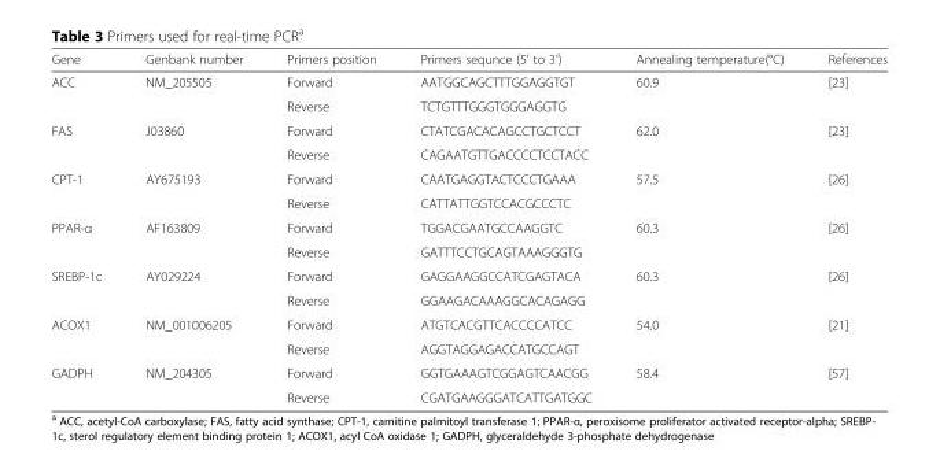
<table><thead><tr><td>Gene</td><td>Genbank number</td><td>Primers position</td><td>Primers sequnce (5&#x27; to 3&#x27;)</td><td>Annealing temperature(°C)</td><td>References</td></tr></thead><tbody><tr><td rowspan="2">ACC</td><td rowspan="2">NM_205505</td><td>Forward</td><td>AATGGCAGCTTTGGAGGTGT</td><td rowspan="2">60.9</td><td rowspan="2">[23]</td></tr><tr><td>Reverse</td><td>TCTGTTTGGGTGGGAGGTG</td></tr><tr><td rowspan="2">FAS</td><td rowspan="2">J03860</td><td>Forward</td><td>CTATCGACACAGCCTGCTCCT</td><td rowspan="2">62.0</td><td rowspan="2">[23]</td></tr><tr><td>Reverse</td><td>CAGAATGTTGACCCCTCCTACC</td></tr><tr><td rowspan="2">CPT-1</td><td rowspan="2">AY675193</td><td>Forward</td><td>CAATGAGGTACTCCCTGAAA</td><td rowspan="2">57.5</td><td rowspan="2">[26]</td></tr><tr><td>Reverse</td><td>CATTATTGGTCCACGCCCTC</td></tr><tr><td rowspan="2">PPAR-α</td><td rowspan="2">AF163809</td><td>Forward</td><td>TGGACGAATGCCAAGGTC</td><td rowspan="2">60.3</td><td rowspan="2">[26]</td></tr><tr><td>Reverse</td><td>GATTTCCTGCAGTAAAGGGTG</td></tr><tr><td rowspan="2">SREBP-1c</td><td rowspan="2">AY029224</td><td>Forward</td><td>GAGGAAGGCCATCGAGTACA</td><td rowspan="2">60.3</td><td rowspan="2">[26]</td></tr><tr><td>Reverse</td><td>GGAAGACAAAGGCACAGAGG</td></tr><tr><td rowspan="2">ACOX1</td><td rowspan="2">NM_001006205</td><td>Forward</td><td>ATGTCACGTTCACCCCATCC</td><td rowspan="2">54.0</td><td rowspan="2">[21]</td></tr><tr><td>Reverse</td><td>AGGTAGGAGACCATGCCAGT</td></tr><tr><td rowspan="2">GADPH</td><td rowspan="2">NM_204305</td><td>Forward</td><td>GGTGAAAGTCGGAGTCAACGG</td><td rowspan="2">58.4</td><td rowspan="2">[57]</td></tr><tr><td>Reverse</td><td>CGATGAAGGGATCATTGATGGC</td></tr></tbody></table>